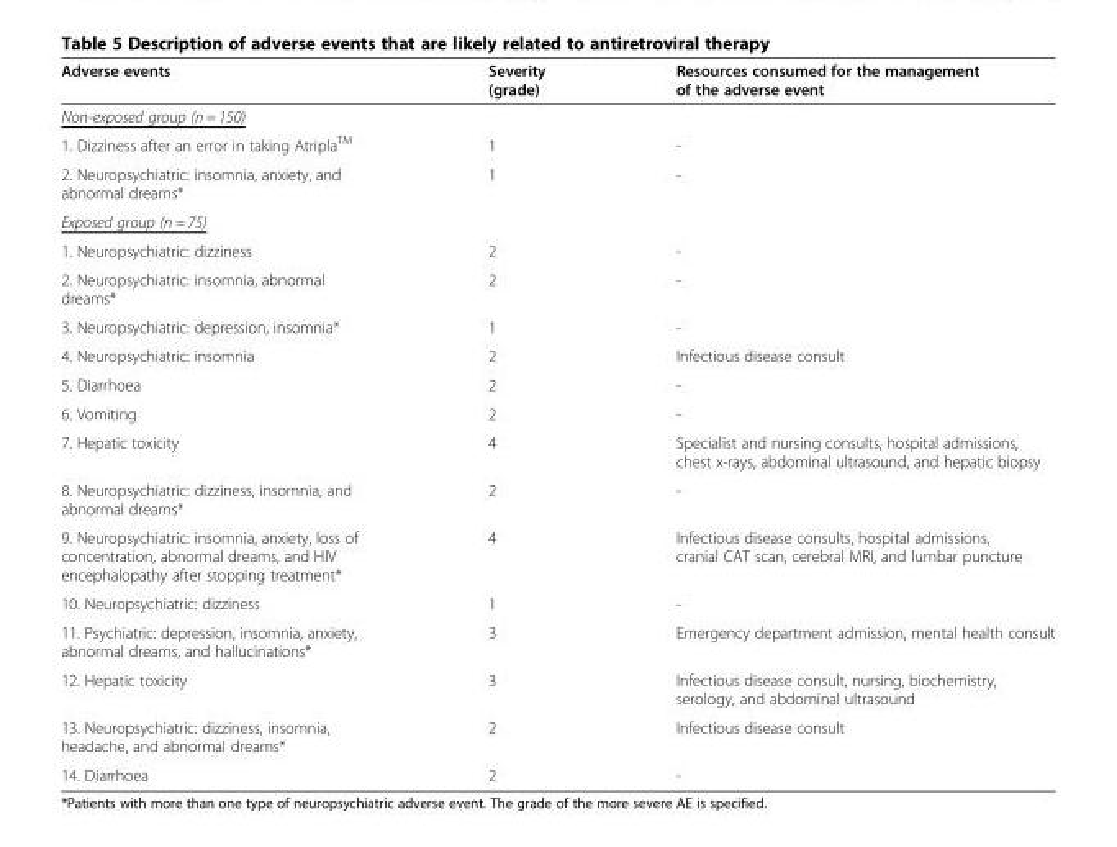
<table><thead><tr><td>Adverse events</td><td>Severity (grade)</td><td>Resources consumed for the management of the adverse event</td></tr></thead><tbody><tr><td colspan="3">Non-exposed group (n = 150)</td></tr><tr><td>1. Dizziness after an error in taking Atripla<sup>TM</sup></td><td>1</td><td>-</td></tr><tr><td>2. Neuropsychiatric: insomnia, anxiety, and abnormal dreams*</td><td>1</td><td>-</td></tr><tr><td colspan="3">Exposed group (n = 75)</td></tr><tr><td>1. Neuropsychiatric: dizziness</td><td>2</td><td>-</td></tr><tr><td>2. Neuropsychiatric: insomnia, abnormal dreams*</td><td>2</td><td>-</td></tr><tr><td>3. Neuropsychiatric: depression, insomnia*</td><td>1</td><td>-</td></tr><tr><td>4. Neuropsychiatric: insomnia</td><td>2</td><td>Infectious disease consult</td></tr><tr><td>5. Diarrhoea</td><td>2</td><td>-</td></tr><tr><td>6. Vomiting</td><td>2</td><td>-</td></tr><tr><td>7. Hepatic toxicity</td><td>4</td><td>Specialist and nursing consults, hospital admissions, chest x-rays, abdominal ultrasound, and hepatic biopsy</td></tr><tr><td>8. Neuropsychiatric: dizziness, insomnia, and abnormal dreams*</td><td>2</td><td>-</td></tr><tr><td>9. Neuropsychiatric: insomnia, anxiety, loss of concentration, abnormal dreams, and HIV encephalopathy after stopping treatment*</td><td>4</td><td>Infectious disease consults, hospital admissions, cranial CAT scan, cerebral MRI, and lumbar puncture</td></tr><tr><td>10. Neuropsychiatric: dizziness</td><td>1</td><td>-</td></tr><tr><td>11. Psychiatric: depression, insomnia, anxiety, abnormal dreams, and hallucinations*</td><td>3</td><td>Emergency department admission, mental health consult</td></tr><tr><td>12. Hepatic toxicity</td><td>3</td><td>Infectious disease consult, nursing, biochemistry, serology, and abdominal ultrasound</td></tr><tr><td>13. Neuropsychiatric: dizziness, insomnia, headache, and abnormal dreams*</td><td>2</td><td>Infectious disease consult</td></tr><tr><td>14. Diarrhoea</td><td>2</td><td>-</td></tr></tbody></table>